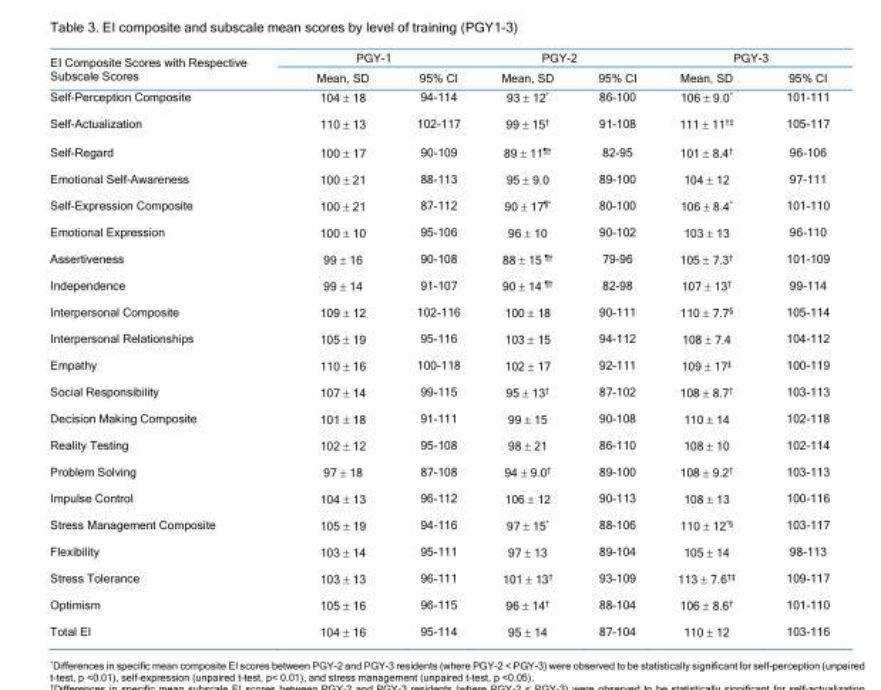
<table><thead><tr><td rowspan="2">EI Composite Scores with Respective Subscale Scores</td><td colspan="2">PGY-1</td><td colspan="2">PGY-2</td><td colspan="2">PGY-3</td></tr><tr><td>Mean, SD</td><td>95% CI</td><td>Mean, SD</td><td>95% CI</td><td>Mean, SD</td><td>95% CI</td></tr></thead><tbody><tr><td>Self-Perception Composite</td><td>104 ± 18</td><td>94-114</td><td>93 ± 12*</td><td>86-100</td><td>106 ± 9.0*</td><td>101-111</td></tr><tr><td>Self-Actualization</td><td>110 ± 13</td><td>102-117</td><td>99 ± 15†</td><td>91-108</td><td>111 ± 11†‡</td><td>105-117</td></tr><tr><td>Self-Regard</td><td>100 ± 17</td><td>90-109</td><td>89 ± 11¶†</td><td>82-95</td><td>101 ± 8.4†</td><td>96-106</td></tr><tr><td>Emotional Self-Awareness</td><td>100 ± 21</td><td>88-113</td><td>95 ± 9.0</td><td>89-100</td><td>104 ± 12</td><td>97-111</td></tr><tr><td>Self-Expression Composite</td><td>100 ± 21</td><td>87-112</td><td>90 ± 17¶*</td><td>80-100</td><td>106 ± 8.4*</td><td>101-110</td></tr><tr><td>Emotional Expression</td><td>100 ± 10</td><td>95-106</td><td>96 ± 10</td><td>90-102</td><td>103 ± 13</td><td>96-110</td></tr><tr><td>Assertiveness</td><td>99 ± 16</td><td>90-108</td><td>88 ± 15 ¶†</td><td>79-96</td><td>105 ± 7.3†</td><td>101-109</td></tr><tr><td>Independence</td><td>99 ± 14</td><td>91-107</td><td>90 ± 14 ¶†</td><td>82-98</td><td>107 ± 13†</td><td>99-114</td></tr><tr><td>Interpersonal Composite</td><td>109 ± 12</td><td>102-116</td><td>100 ± 18</td><td>90-111</td><td>110 ± 7.7§</td><td>105-114</td></tr><tr><td>Interpersonal Relationships</td><td>105 ± 19</td><td>95-116</td><td>103 ± 15</td><td>94-112</td><td>108 ± 7.4</td><td>104-112</td></tr><tr><td>Empathy</td><td>110 ± 16</td><td>100-118</td><td>102 ± 17</td><td>92-111</td><td>109 ± 17‡</td><td>100-119</td></tr><tr><td>Social Responsibility</td><td>107 ± 14</td><td>99-115</td><td>95 ± 13†</td><td>87-102</td><td>108 ± 8.7†</td><td>103-113</td></tr><tr><td>Decision Making Composite</td><td>101 ± 18</td><td>91-111</td><td>99 ± 15</td><td>90-108</td><td>110 ± 14</td><td>102-118</td></tr><tr><td>Reality Testing</td><td>102 ± 12</td><td>95-108</td><td>98 ± 21</td><td>86-110</td><td>108 ± 10</td><td>102-114</td></tr><tr><td>Problem Solving</td><td>97 ± 18</td><td>87-108</td><td>94 ± 9.0†</td><td>89-100</td><td>108 ± 9.2†</td><td>103-113</td></tr><tr><td>Impulse Control</td><td>104 ± 13</td><td>96-112</td><td>106 ± 12</td><td>90-113</td><td>108 ± 13</td><td>100-116</td></tr><tr><td>Stress Management Composite</td><td>105 ± 19</td><td>94-116</td><td>97 ± 15*</td><td>88-106</td><td>110 ± 12*§</td><td>103-117</td></tr><tr><td>Flexibility</td><td>103 ± 14</td><td>95-111</td><td>97 ± 13</td><td>89-104</td><td>105 ± 14</td><td>98-113</td></tr><tr><td>Stress Tolerance</td><td>103 ± 13</td><td>96-111</td><td>101 ± 13†</td><td>93-109</td><td>113 ± 7.6†‡</td><td>109-117</td></tr><tr><td>Optimism</td><td>105 ± 16</td><td>96-115</td><td>96 ± 14†</td><td>88-104</td><td>106 ± 8.6†</td><td>101-110</td></tr><tr><td>Total EI</td><td>104 ± 16</td><td>95-114</td><td>95 ± 14</td><td>87-104</td><td>110 ± 12</td><td>103-116</td></tr></tbody></table>